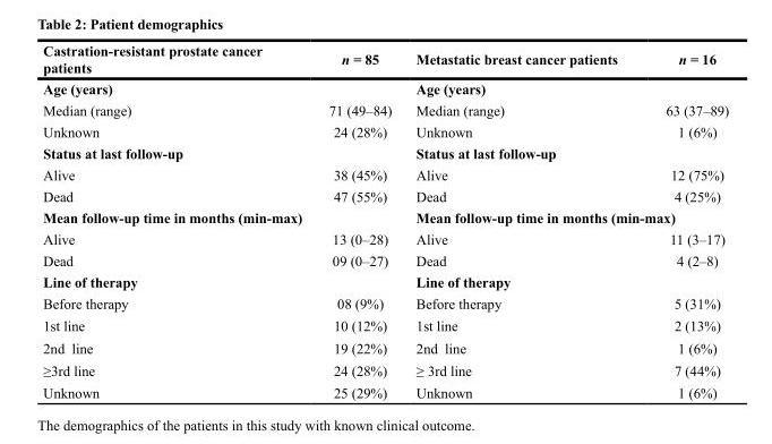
<table><thead><tr><td>Castration-resistant prostate cancer patients</td><td>n = 85</td><td>Metastatic breast cancer patients</td><td>n = 16</td></tr></thead><tbody><tr><td colspan="2">Age (years)</td><td colspan="2">Age (years)</td></tr><tr><td>Median (range)</td><td>71 (49–84)</td><td>Median (range)</td><td>63 (37–89)</td></tr><tr><td>Unknown</td><td>24 (28%)</td><td>Unknown</td><td>1 (6%)</td></tr><tr><td colspan="2">Status at last follow-up</td><td colspan="2">Status at last follow-up</td></tr><tr><td>Alive</td><td>38 (45%)</td><td>Alive</td><td>12 (75%)</td></tr><tr><td>Dead</td><td>47 (55%)</td><td>Dead</td><td>4 (25%)</td></tr><tr><td colspan="2">Mean follow-up time in months (min-max)</td><td colspan="2">Mean follow-up time in months (min-max)</td></tr><tr><td>Alive</td><td>13 (0–28)</td><td>Alive</td><td>11 (3–17)</td></tr><tr><td>Dead</td><td>09 (0–27)</td><td>Dead</td><td>4 (2–8)</td></tr><tr><td colspan="2">Line of therapy</td><td colspan="2">Line of therapy</td></tr><tr><td>Before therapy</td><td>08 (9%)</td><td>Before therapy</td><td>5 (31%)</td></tr><tr><td>1st line</td><td>10 (12%)</td><td>1st line</td><td>2 (13%)</td></tr><tr><td>2nd line</td><td>19 (22%)</td><td>2nd line</td><td>1 (6%)</td></tr><tr><td>≥3rd line</td><td>24 (28%)</td><td>≥ 3rd line</td><td>7 (44%)</td></tr><tr><td>Unknown</td><td>25 (29%)</td><td>Unknown</td><td>1 (6%)</td></tr></tbody></table>